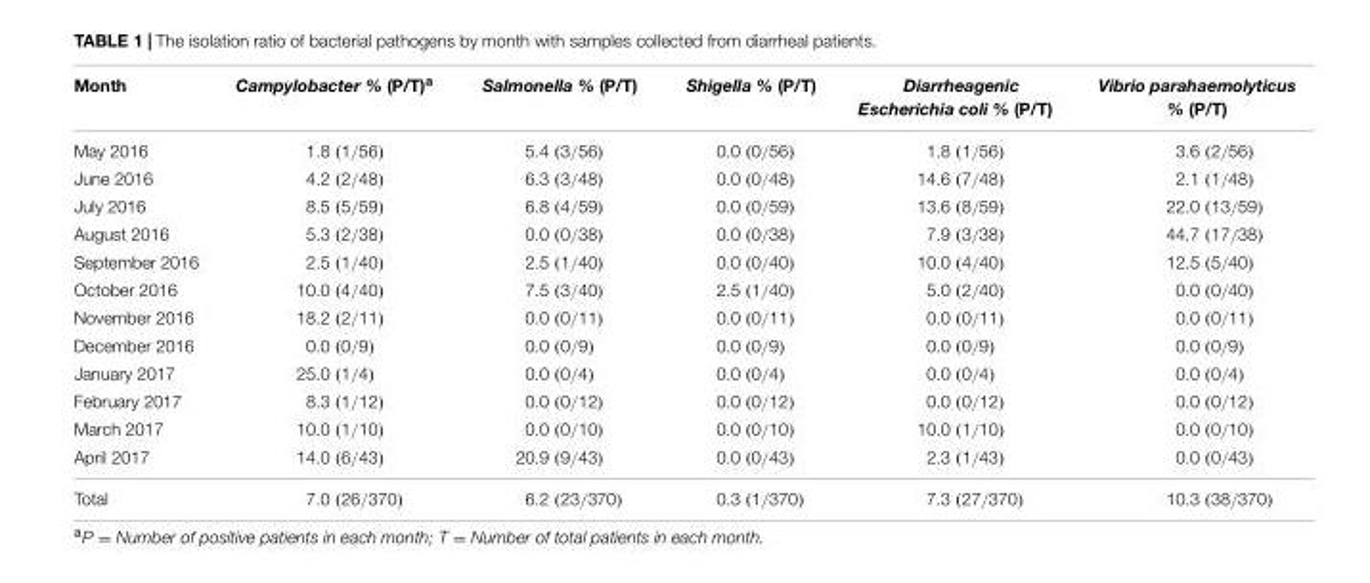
<table><thead><tr><td>Month</td><td>Campylobacter % (P/T)<sup>a</sup></td><td>Salmonella % (P/T)</td><td>Shigella % (P/T)</td><td>Diarrheagenic Escherichia coli % (P/T)</td><td>Vibrio parahaemolyticus % (P/T)</td></tr></thead><tbody><tr><td>May 2016</td><td>1.8 (1/56)</td><td>5.4 (3/56)</td><td>0.0 (0/56)</td><td>1.8 (1/56)</td><td>3.6 (2/56)</td></tr><tr><td>June 2016</td><td>4.2 (2/48)</td><td>6.3 (3/48)</td><td>0.0 (0/48)</td><td>14.6 (7/48)</td><td>2.1 (1/48)</td></tr><tr><td>July 2016</td><td>8.5 (5/59)</td><td>6.8 (4/59)</td><td>0.0 (0/59)</td><td>13.6 (8/59)</td><td>22.0 (13/59)</td></tr><tr><td>August 2016</td><td>5.3 (2/38)</td><td>0.0 (0/38)</td><td>0.0 (0/38)</td><td>7.9 (3/38)</td><td>44.7 (17/38)</td></tr><tr><td>September 2016</td><td>2.5 (1/40)</td><td>2.5 (1/40)</td><td>0.0 (0/40)</td><td>10.0 (4/40)</td><td>12.5 (5/40)</td></tr><tr><td>October 2016</td><td>10.0 (4/40)</td><td>7.5 (3/40)</td><td>2.5 (1/40)</td><td>5.0 (2/40)</td><td>0.0 (0/40)</td></tr><tr><td>November 2016</td><td>18.2 (2/11)</td><td>0.0 (0/11)</td><td>0.0 (0/11)</td><td>0.0 (0/11)</td><td>0.0 (0/11)</td></tr><tr><td>December 2016</td><td>0.0 (0/9)</td><td>0.0 (0/9)</td><td>0.0 (0/9)</td><td>0.0 (0/9)</td><td>0.0 (0/9)</td></tr><tr><td>January 2017</td><td>25.0 (1/4)</td><td>0.0 (0/4)</td><td>0.0 (0/4)</td><td>0.0 (0/4)</td><td>0.0 (0/4)</td></tr><tr><td>February 2017</td><td>8.3 (1/12)</td><td>0.0 (0/12)</td><td>0.0 (0/12)</td><td>0.0 (0/12)</td><td>0.0 (0/12)</td></tr><tr><td>March 2017</td><td>10.0 (1/10)</td><td>0.0 (0/10)</td><td>0.0 (0/10)</td><td>10.0 (1/10)</td><td>0.0 (0/10)</td></tr><tr><td>April 2017</td><td>14.0 (6/43)</td><td>20.9 (9/43)</td><td>0.0 (0/43)</td><td>2.3 (1/43)</td><td>0.0 (0/43)</td></tr><tr><td>Total</td><td>7.0 (26/370)</td><td>6.2 (23/370)</td><td>0.3 (1/370)</td><td>7.3 (27/370)</td><td>10.3 (38/370)</td></tr></tbody></table>